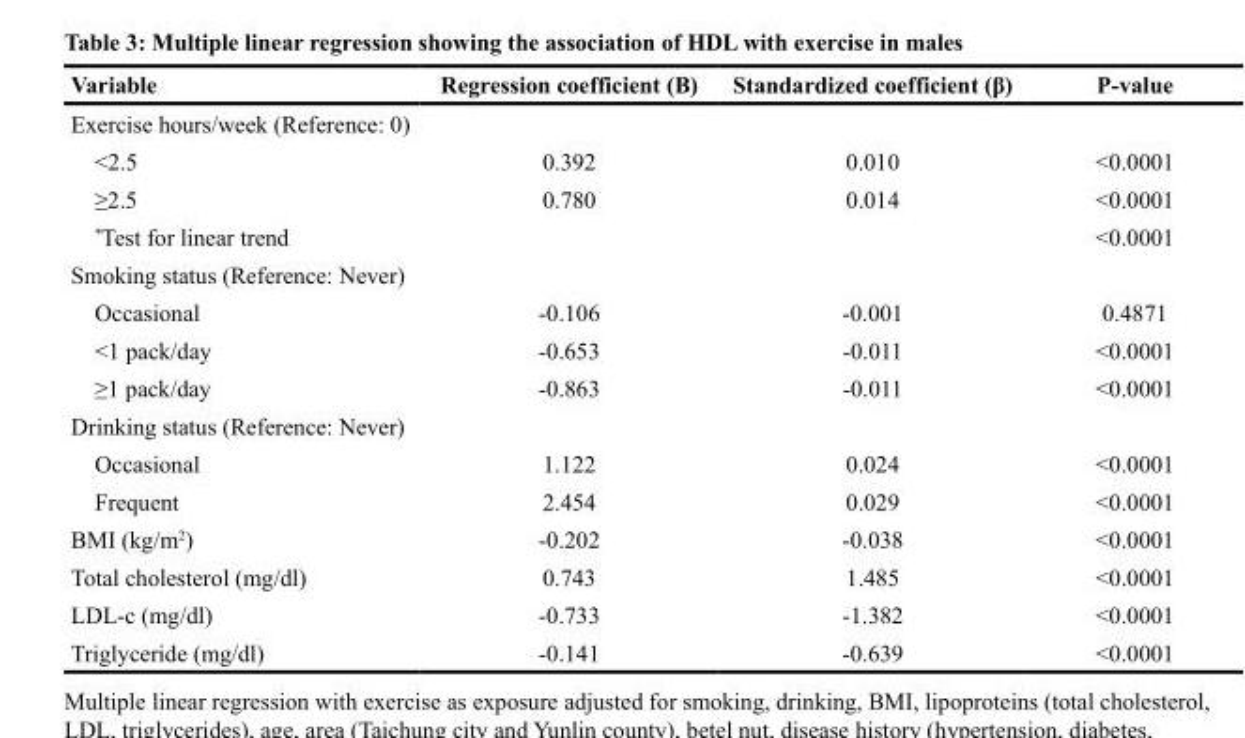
<table><thead><tr><td>Variable</td><td>Regression coefficient (B)</td><td>Standardized coefficient (β)</td><td>P-value</td></tr></thead><tbody><tr><td colspan="4">Exercise hours/week (Reference: 0)</td></tr><tr><td>&lt;2.5</td><td>0.392</td><td>0.010</td><td>&lt;0.0001</td></tr><tr><td>≥2.5</td><td>0.780</td><td>0.014</td><td>&lt;0.0001</td></tr><tr><td>*Test for linear trend</td><td></td><td></td><td>&lt;0.0001</td></tr><tr><td colspan="4">Smoking status (Reference: Never)</td></tr><tr><td>Occasional</td><td>-0.106</td><td>-0.001</td><td>0.4871</td></tr><tr><td>&lt;1 pack/day</td><td>-0.653</td><td>-0.011</td><td>&lt;0.0001</td></tr><tr><td>≥1 pack/day</td><td>-0.863</td><td>-0.011</td><td>&lt;0.0001</td></tr><tr><td colspan="4">Drinking status (Reference: Never)</td></tr><tr><td>Occasional</td><td>1.122</td><td>0.024</td><td>&lt;0.0001</td></tr><tr><td>Frequent</td><td>2.454</td><td>0.029</td><td>&lt;0.0001</td></tr><tr><td>BMI (kg/m<sup>2</sup>)</td><td>-0.202</td><td>-0.038</td><td>&lt;0.0001</td></tr><tr><td>Total cholesterol (mg/dl)</td><td>0.743</td><td>1.485</td><td>&lt;0.0001</td></tr><tr><td>LDL-c (mg/dl)</td><td>-0.733</td><td>-1.382</td><td>&lt;0.0001</td></tr><tr><td>Triglyceride (mg/dl)</td><td>-0.141</td><td>-0.639</td><td>&lt;0.0001</td></tr></tbody></table>